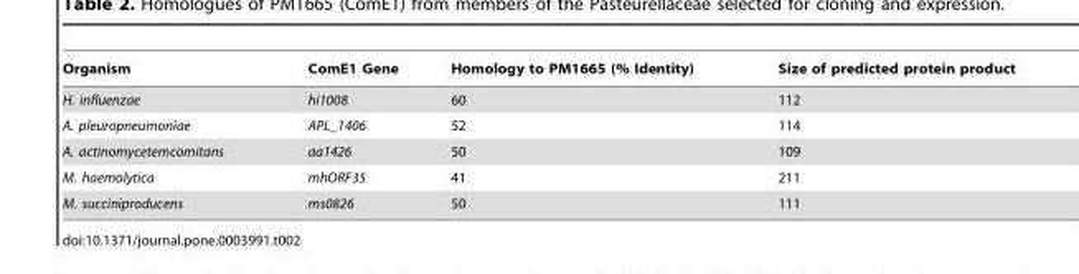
<table><thead><tr><td>Organism</td><td>ComE1 Gene</td><td>Homology to PM1665 (% Identity)</td><td>Size of predicted protein product</td></tr></thead><tbody><tr><td>H. influenzae</td><td>hi1008</td><td>60</td><td>112</td></tr><tr><td>A. pleuropneumoniae</td><td>APL_1406</td><td>52</td><td>114</td></tr><tr><td>A. actinomycetemcomitans</td><td>aa1426</td><td>50</td><td>109</td></tr><tr><td>M. haemolytica</td><td>mhORF35</td><td>41</td><td>211</td></tr><tr><td>M. succiniproducens</td><td>ms0826</td><td>50</td><td>111</td></tr></tbody></table>